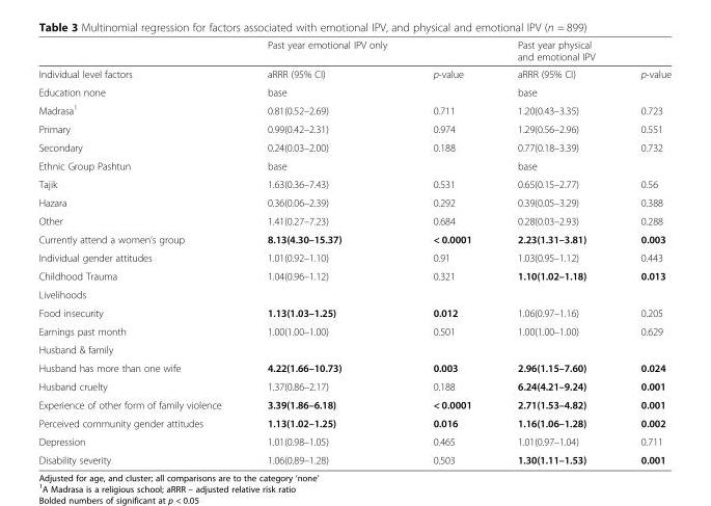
<table><thead><tr><td></td><td>Past year emotional IPV only</td><td></td><td>Past year physical and emotional IPV</td><td></td></tr></thead><tbody><tr><td>Individual level factors</td><td>aRRR (95% CI)</td><td>p-value</td><td>aRRR (95% CI)</td><td>p-value</td></tr><tr><td>Education none</td><td>base</td><td></td><td>base</td><td></td></tr><tr><td>Madrasa<sup>1</sup></td><td>0.81(0.52–2.69)</td><td>0.711</td><td>1.20(0.43–3.35)</td><td>0.723</td></tr><tr><td>Primary</td><td>0.99(0.42–2.31)</td><td>0.974</td><td>1.29(0.56–2.96)</td><td>0.551</td></tr><tr><td>Secondary</td><td>0.24(0.03–2.00)</td><td>0.188</td><td>0.77(0.18–3.39)</td><td>0.732</td></tr><tr><td>Ethnic Group Pashtun</td><td>base</td><td></td><td>base</td><td></td></tr><tr><td>Tajik</td><td>1.63(0.36–7.43)</td><td>0.531</td><td>0.65(0.15–2.77)</td><td>0.56</td></tr><tr><td>Hazara</td><td>0.36(0.06–2.39)</td><td>0.292</td><td>0.39(0.05–3.29)</td><td>0.388</td></tr><tr><td>Other</td><td>1.41(0.27–7.23)</td><td>0.684</td><td>0.28(0.03–2.93)</td><td>0.288</td></tr><tr><td>Currently attend a women’s group</td><td>8.13(4.30–15.37)</td><td>&lt; 0.0001</td><td>2.23(1.31–3.81)</td><td>0.003</td></tr><tr><td>Individual gender attitudes</td><td>1.01(0.92–1.10)</td><td>0.91</td><td>1.03(0.95–1.12)</td><td>0.443</td></tr><tr><td>Childhood Trauma</td><td>1.04(0.96–1.12)</td><td>0.321</td><td>1.10(1.02–1.18)</td><td>0.013</td></tr><tr><td colspan="5">Livelihoods</td></tr><tr><td>Food insecurity</td><td>1.13(1.03–1.25)</td><td>0.012</td><td>1.06(0.97–1.16)</td><td>0.205</td></tr><tr><td>Earnings past month</td><td>1.00(1.00–1.00)</td><td>0.501</td><td>1.00(1.00–1.00)</td><td>0.629</td></tr><tr><td colspan="5">Husband &amp; family</td></tr><tr><td>Husband has more than one wife</td><td>4.22(1.66–10.73)</td><td>0.003</td><td>2.96(1.15–7.60)</td><td>0.024</td></tr><tr><td>Husband cruelty</td><td>1.37(0.86–2.17)</td><td>0.188</td><td>6.24(4.21–9.24)</td><td>0.001</td></tr><tr><td>Experience of other form of family violence</td><td>3.39(1.86–6.18)</td><td>&lt; 0.0001</td><td>2.71(1.53–4.82)</td><td>0.001</td></tr><tr><td>Perceived community gender attitudes</td><td>1.13(1.02–1.25)</td><td>0.016</td><td>1.16(1.06–1.28)</td><td>0.002</td></tr><tr><td>Depression</td><td>1.01(0.98–1.05)</td><td>0.465</td><td>1.01(0.97–1.04)</td><td>0.711</td></tr><tr><td>Disability severity</td><td>1.06(0.89–1.28)</td><td>0.503</td><td>1.30(1.11–1.53)</td><td>0.001</td></tr></tbody></table>